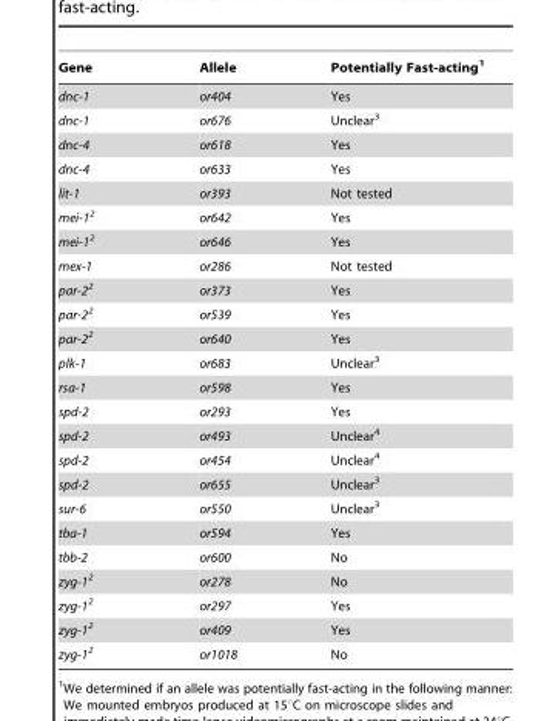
<table><thead><tr><td>Gene</td><td>Allele</td><td>Potentially Fast-acting<sup>1</sup></td></tr></thead><tbody><tr><td>dnc-1</td><td>or404</td><td>Yes</td></tr><tr><td>dnc-1</td><td>or676</td><td>Unclear<sup>3</sup></td></tr><tr><td>dnc-4</td><td>or618</td><td>Yes</td></tr><tr><td>dnc-4</td><td>or633</td><td>Yes</td></tr><tr><td>lit-1</td><td>or393</td><td>Not tested</td></tr><tr><td>mei-12</td><td>or642</td><td>Yes</td></tr><tr><td>mei-12</td><td>or646</td><td>Yes</td></tr><tr><td>mex-1</td><td>or286</td><td>Not tested</td></tr><tr><td>par-22</td><td>or373</td><td>Yes</td></tr><tr><td>par-22</td><td>or539</td><td>Yes</td></tr><tr><td>par-22</td><td>or640</td><td>Yes</td></tr><tr><td>plk-1</td><td>or683</td><td>Unclear<sup>3</sup></td></tr><tr><td>rsa-1</td><td>or598</td><td>Yes</td></tr><tr><td>spd-2</td><td>or293</td><td>Yes</td></tr><tr><td>spd-2</td><td>or493</td><td>Unclear<sup>4</sup></td></tr><tr><td>spd-2</td><td>or454</td><td>Unclear<sup>4</sup></td></tr><tr><td>spd-2</td><td>or655</td><td>Unclear<sup>3</sup></td></tr><tr><td>sur-6</td><td>or550</td><td>Unclear<sup>3</sup></td></tr><tr><td>tba-1</td><td>or594</td><td>Yes</td></tr><tr><td>tbb-2</td><td>or600</td><td>No</td></tr><tr><td>zyg-12</td><td>or278</td><td>No</td></tr><tr><td>zyg-12</td><td>or297</td><td>Yes</td></tr><tr><td>zyg-12</td><td>or409</td><td>Yes</td></tr><tr><td>zyg-12</td><td>or1018</td><td>No</td></tr></tbody></table>